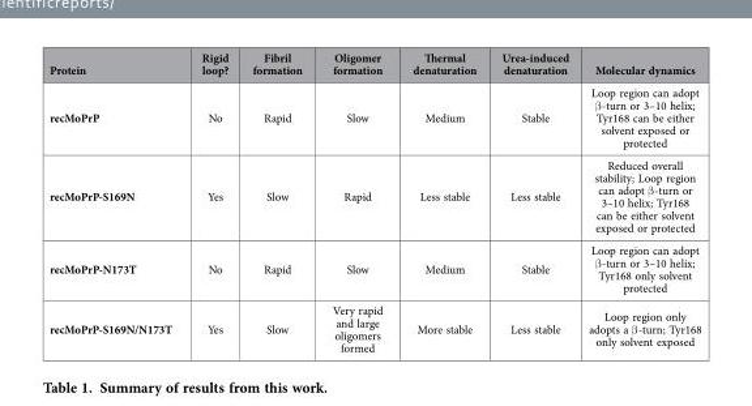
<table><thead><tr><td>Protein</td><td>Rigid loop?</td><td>Fibril formation</td><td>Oligomer formation</td><td>Thermal denaturation</td><td>Urea-induced denaturation</td><td>Molecular dynamics</td></tr></thead><tbody><tr><td>recMoPrP</td><td>No</td><td>Rapid</td><td>Slow</td><td>Medium</td><td>Stable</td><td>Loop region can adopt β -turn or 3–10 helix; Tyr168 can be either solvent exposed or protected</td></tr><tr><td>recMoPrP-S169N</td><td>Yes</td><td>Slow</td><td>Rapid</td><td>Less stable</td><td>Less stable</td><td>Reduced overall stability; Loop region can adopt β -turn or 3–10 helix; Tyr168 can be either solvent exposed or protected</td></tr><tr><td>recMoPrP-N173T</td><td>No</td><td>Rapid</td><td>Slow</td><td>Medium</td><td>Stable</td><td>Loop region can adopt β -turn or 3–10 helix; Tyr168 only solvent protected</td></tr><tr><td>recMoPrP-S169N/N173T</td><td>Yes</td><td>Slow</td><td>Very rapid and large oligomers formed</td><td>More stable</td><td>Less stable</td><td>Loop region only adopts a β -turn; Tyr168 only solvent exposed</td></tr></tbody></table>